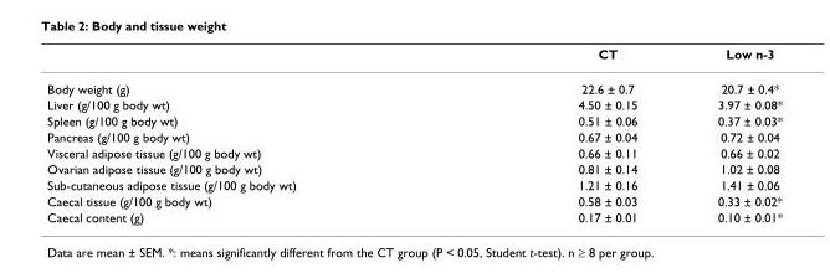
<table><thead><tr><td></td><td>CT</td><td>Low n-3</td></tr></thead><tbody><tr><td>Body weight (g)</td><td>22.6 ± 0.7</td><td>20.7 ± 0.4*</td></tr><tr><td>Liver (g/100 g body wt)</td><td>4.50 ± 0.15</td><td>3.97 ± 0.08*</td></tr><tr><td>Spleen (g/100 g body wt)</td><td>0.51 ± 0.06</td><td>0.37 ± 0.03*</td></tr><tr><td>Pancreas (g/100 g body wt)</td><td>0.67 ± 0.04</td><td>0.72 ± 0.04</td></tr><tr><td>Visceral adipose tissue (g/100 g body wt)</td><td>0.66 ± 0.11</td><td>0.66 ± 0.02</td></tr><tr><td>Ovarian adipose tissue (g/100 g body wt)</td><td>0.81 ± 0.14</td><td>1.02 ± 0.08</td></tr><tr><td>Sub-cutaneous adipose tissue (g/100 g body wt)</td><td>1.21 ± 0.16</td><td>1.41 ± 0.06</td></tr><tr><td>Caecal tissue (g/100 g body wt)</td><td>0.58 ± 0.03</td><td>0.33 ± 0.02*</td></tr><tr><td>Caecal content (g)</td><td>0.17 ± 0.01</td><td>0.10 ± 0.01*</td></tr></tbody></table>